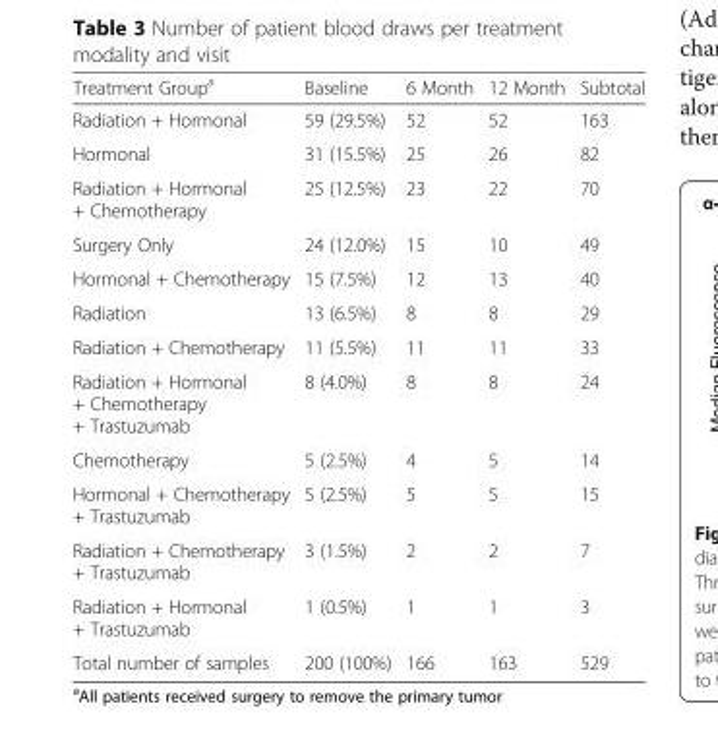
<table><thead><tr><td>Treatment Group<sup>a</sup></td><td>Baseline</td><td>6 Month</td><td>12 Month</td><td>Subtotal</td></tr></thead><tbody><tr><td>Radiation + Hormonal</td><td>59 (29.5%)</td><td>52</td><td>52</td><td>163</td></tr><tr><td>Hormonal</td><td>31 (15.5%)</td><td>25</td><td>26</td><td>82</td></tr><tr><td>Radiation + Hormonal + Chemotherapy</td><td>25 (12.5%)</td><td>23</td><td>22</td><td>70</td></tr><tr><td>Surgery Only</td><td>24 (12.0%)</td><td>15</td><td>10</td><td>49</td></tr><tr><td>Hormonal + Chemotherapy</td><td>15 (7.5%)</td><td>12</td><td>13</td><td>40</td></tr><tr><td>Radiation</td><td>13 (6.5%)</td><td>8</td><td>8</td><td>29</td></tr><tr><td>Radiation + Chemotherapy</td><td>11 (5.5%)</td><td>11</td><td>11</td><td>33</td></tr><tr><td>Radiation + Hormonal + Chemotherapy + Trastuzumab</td><td>8 (4.0%)</td><td>8</td><td>8</td><td>24</td></tr><tr><td>Chemotherapy</td><td>5 (2.5%)</td><td>4</td><td>5</td><td>14</td></tr><tr><td>Hormonal + Chemotherapy + Trastuzumab</td><td>5 (2.5%)</td><td>5</td><td>5</td><td>15</td></tr><tr><td>Radiation + Chemotherapy + Trastuzumab</td><td>3 (1.5%)</td><td>2</td><td>2</td><td>7</td></tr><tr><td>Radiation + Hormonal + Trastuzumab</td><td>1 (0.5%)</td><td>1</td><td>1</td><td>3</td></tr><tr><td>Total number of samples</td><td>200 (100%)</td><td>166</td><td>163</td><td>529</td></tr></tbody></table>